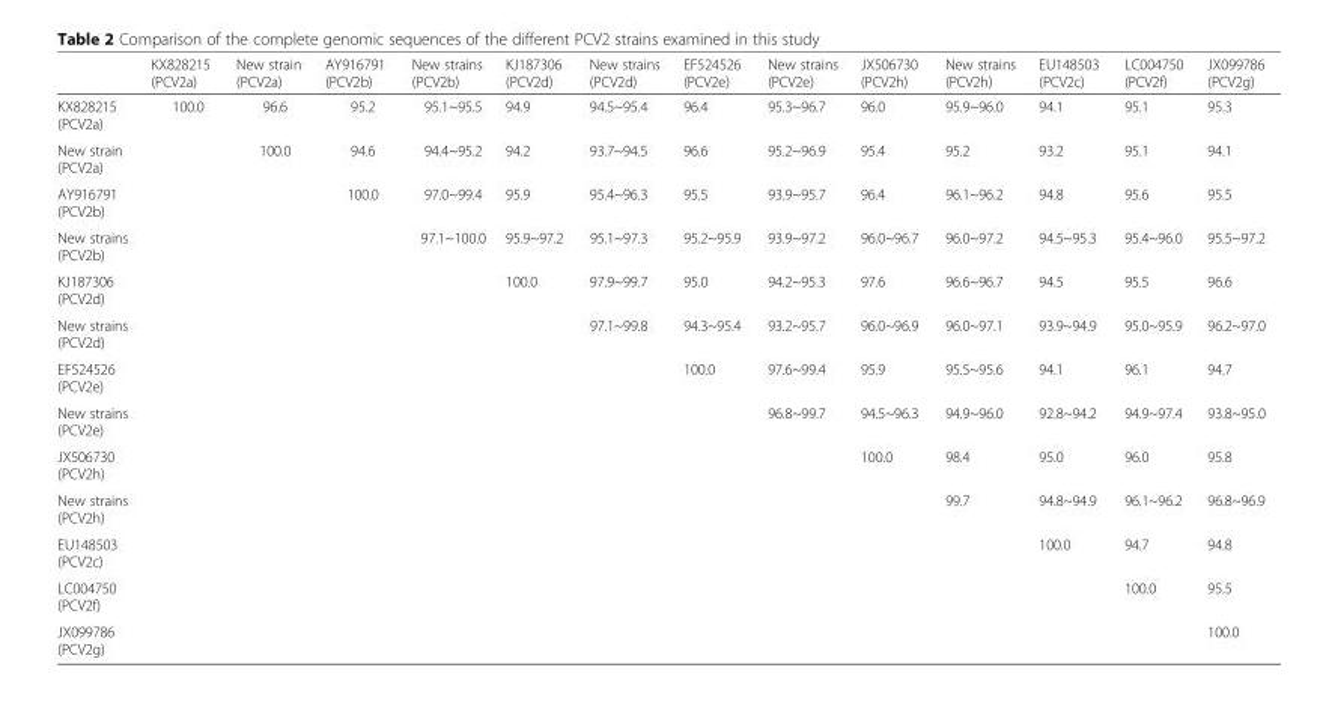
<table><thead><tr><td></td><td>KX828215 (PCV2a)</td><td>New strain (PCV2a)</td><td>AY916791 (PCV2b)</td><td>New strains (PCV2b)</td><td>KJ187306 (PCV2d)</td><td>New strains (PCV2d)</td><td>EF524526 (PCV2e)</td><td>New strains (PCV2e)</td><td>JX506730 (PCV2h)</td><td>New strains (PCV2h)</td><td>EU148503 (PCV2c)</td><td>LC004750 (PCV2f)</td><td>JX099786 (PCV2g)</td></tr></thead><tbody><tr><td>KX828215 (PCV2a)</td><td>100.0</td><td>96.6</td><td>95.2</td><td>95.1~95.5</td><td>94.9</td><td>94.5~95.4</td><td>96.4</td><td>95.3~96.7</td><td>96.0</td><td>95.9~96.0</td><td>94.1</td><td>95.1</td><td>95.3</td></tr><tr><td>New strain (PCV2a)</td><td></td><td>100.0</td><td>94.6</td><td>94.4~95.2</td><td>94.2</td><td>93.7~94.5</td><td>96.6</td><td>95.2~96.9</td><td>95.4</td><td>95.2</td><td>93.2</td><td>95.1</td><td>94.1</td></tr><tr><td>AY916791 (PCV2b)</td><td></td><td></td><td>100.0</td><td>97.0~99.4</td><td>95.9</td><td>95.4~96.3</td><td>95.5</td><td>93.9~95.7</td><td>96.4</td><td>96.1~96.2</td><td>94.8</td><td>95.6</td><td>95.5</td></tr><tr><td>New strains (PCV2b)</td><td></td><td></td><td></td><td>97.1~100.0</td><td>95.9~97.2</td><td>95.1~97.3</td><td>95.2~95.9</td><td>93.9~97.2</td><td>96.0~96.7</td><td>96.0~97.2</td><td>94.5~95.3</td><td>95.4~96.0</td><td>95.5~97.2</td></tr><tr><td>KJ187306 (PCV2d)</td><td></td><td></td><td></td><td></td><td>100.0</td><td>97.9~99.7</td><td>95.0</td><td>94.2~95.3</td><td>97.6</td><td>96.6~96.7</td><td>94.5</td><td>95.5</td><td>96.6</td></tr><tr><td>New strains (PCV2d)</td><td></td><td></td><td></td><td></td><td></td><td>97.1~99.8</td><td>94.3~95.4</td><td>93.2~95.7</td><td>96.0~96.9</td><td>96.0~97.1</td><td>93.9~94.9</td><td>95.0~95.9</td><td>96.2~97.0</td></tr><tr><td>EF524526 (PCV2e)</td><td></td><td></td><td></td><td></td><td></td><td></td><td>100.0</td><td>97.6~99.4</td><td>95.9</td><td>95.5~95.6</td><td>94.1</td><td>96.1</td><td>94.7</td></tr><tr><td>New strains (PCV2e)</td><td></td><td></td><td></td><td></td><td></td><td></td><td></td><td>96.8~99.7</td><td>94.5~96.3</td><td>94.9~96.0</td><td>92.8~94.2</td><td>94.9~97.4</td><td>93.8~95.0</td></tr><tr><td>JX506730 (PCV2h)</td><td></td><td></td><td></td><td></td><td></td><td></td><td></td><td></td><td>100.0</td><td>98.4</td><td>95.0</td><td>96.0</td><td>95.8</td></tr><tr><td>New strains (PCV2h)</td><td></td><td></td><td></td><td></td><td></td><td></td><td></td><td></td><td></td><td>99.7</td><td>94.8~94.9</td><td>96.1~96.2</td><td>96.8~96.9</td></tr><tr><td>EU148503 (PCV2c)</td><td></td><td></td><td></td><td></td><td></td><td></td><td></td><td></td><td></td><td></td><td>100.0</td><td>94.7</td><td>94.8</td></tr><tr><td>LC004750 (PCV2f)</td><td></td><td></td><td></td><td></td><td></td><td></td><td></td><td></td><td></td><td></td><td></td><td>100.0</td><td>95.5</td></tr><tr><td>JX099786 (PCV2g)</td><td></td><td></td><td></td><td></td><td></td><td></td><td></td><td></td><td></td><td></td><td></td><td></td><td>100.0</td></tr></tbody></table>